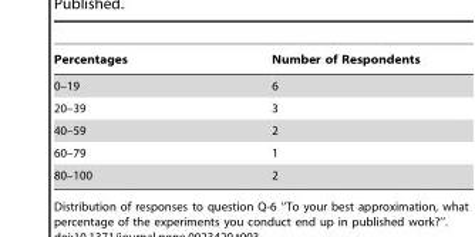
<table><thead><tr><td>Percentages</td><td>Number of Respondents</td></tr></thead><tbody><tr><td>0–19</td><td>6</td></tr><tr><td>20–39</td><td>3</td></tr><tr><td>40–59</td><td>2</td></tr><tr><td>60–79</td><td>1</td></tr><tr><td>80–100</td><td>2</td></tr></tbody></table>